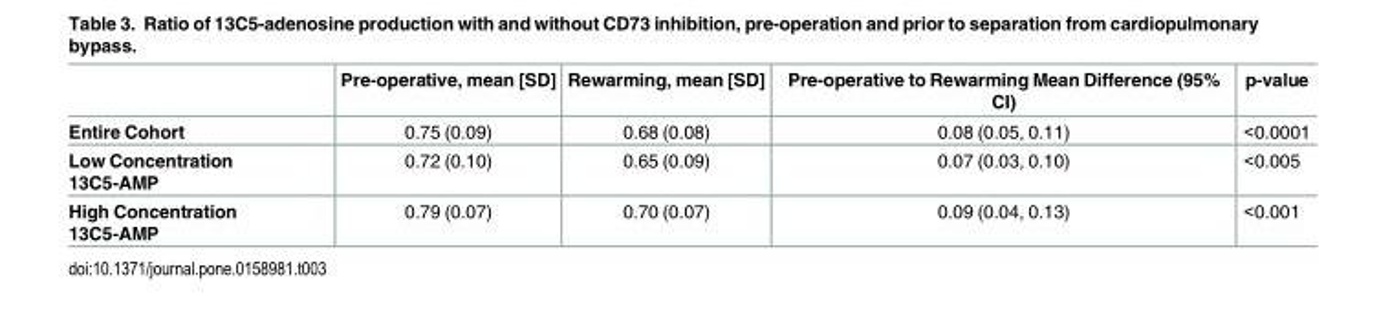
<table><thead><tr><td></td><td>Pre-operative, mean [SD]</td><td>Rewarming, mean [SD]</td><td>Pre-operative to Rewarming Mean Difference (95% CI)</td><td>p-value</td></tr></thead><tbody><tr><td>Entire Cohort</td><td>0.75 (0.09)</td><td>0.68 (0.08)</td><td>0.08 (0.05, 0.11)</td><td>&lt;0.0001</td></tr><tr><td>Low Concentration 13C5-AMP</td><td>0.72 (0.10)</td><td>0.65 (0.09)</td><td>0.07 (0.03, 0.10)</td><td>&lt;0.005</td></tr><tr><td>High Concentration 13C5-AMP</td><td>0.79 (0.07)</td><td>0.70 (0.07)</td><td>0.09 (0.04, 0.13)</td><td>&lt;0.001</td></tr></tbody></table>